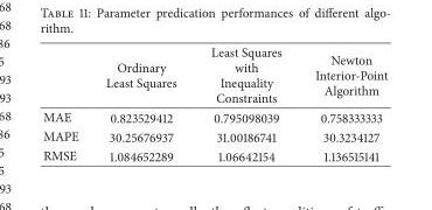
<table><thead><tr><td></td><td>Ordinary Least Squares</td><td>Least Squares with Inequality Constraints</td><td>Newton Interior-Point Algorithm</td></tr></thead><tbody><tr><td>MAE</td><td>0.823529412</td><td>0.795098039</td><td>0.758333333</td></tr><tr><td>MAPE</td><td>30.25676937</td><td>31.00186741</td><td>30.3234127</td></tr><tr><td>RMSE</td><td>1.084652289</td><td>1.06642154</td><td>1.136515141</td></tr></tbody></table>